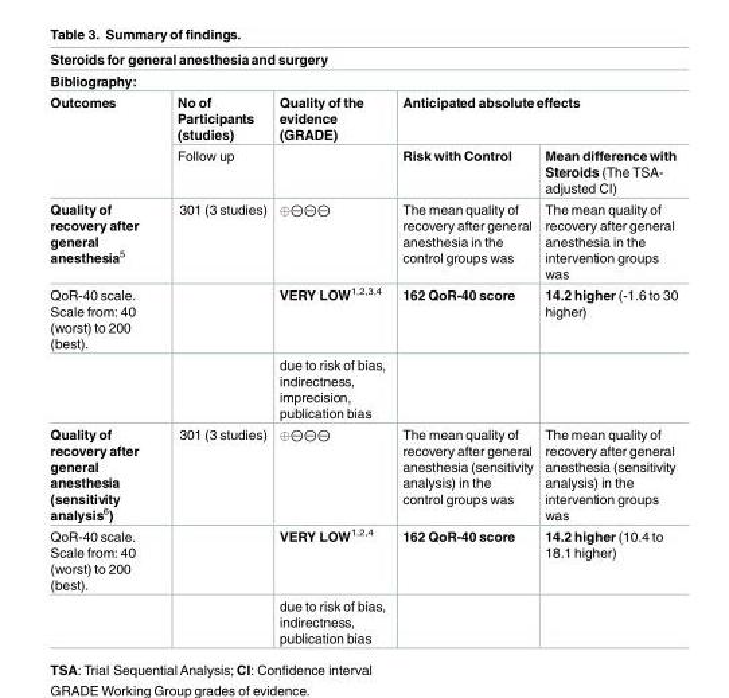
<table><thead><tr><td rowspan="2" colspan="5">Steroids for general anesthesia and surgery Bibliography:</td></tr><tr></tr><tr><td rowspan="2">Outcomes</td><td rowspan="2">No of Participants (studies) Follow up</td><td rowspan="2">Quality of the evidence (GRADE)</td><td colspan="2">Anticipated absolute effects</td></tr><tr><td>Risk with Control</td><td>Mean difference with Steroids (The TSA- adjusted CI)</td></tr></thead><tbody><tr><td>Quality of recovery after general anesthesia<sup>5</sup></td><td>301 (3 studies)</td><td>⊕⊝⊝⊝</td><td>The mean quality of recovery after general anesthesia in the control groups was</td><td>The mean quality of recovery after general anesthesia in the intervention groups was</td></tr><tr><td rowspan="2">QoR-40 scale. Scale from: 40 (worst) to 200 (best).</td><td></td><td>VERY LOW<sup>1,2,3,4</sup></td><td>162 QoR-40 score</td><td>14.2 higher (-1.6 to 30 higher)</td></tr><tr><td></td><td>due to risk of bias, indirectness, imprecision, publication bias</td><td></td><td></td></tr><tr><td>Quality of recovery after general anesthesia (sensitivity analysis<sup>6</sup>)</td><td>301 (3 studies)</td><td>⊕⊝⊝⊝</td><td>The mean quality of recovery after general anesthesia (sensitivity analysis) in the control groups was</td><td>The mean quality of recovery after general anesthesia (sensitivity analysis) in the intervention groups was</td></tr><tr><td rowspan="2">QoR-40 scale. Scale from: 40 (worst) to 200 (best).</td><td></td><td>VERY LOW<sup>1,2,4</sup></td><td>162 QoR-40 score</td><td>14.2 higher (10.4 to 18.1 higher)</td></tr><tr><td></td><td>due to risk of bias, indirectness, publication bias</td><td></td><td></td></tr></tbody></table>